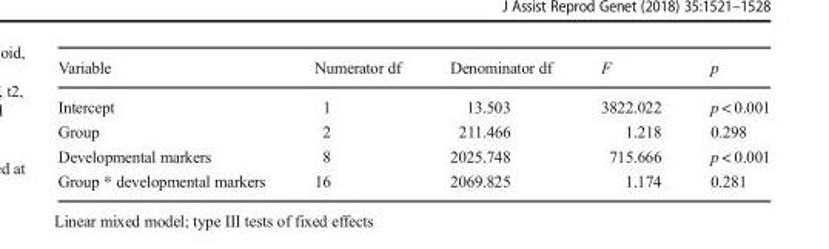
<table><thead><tr><td>Variable</td><td>Numerator df</td><td>Denominator df</td><td>F</td><td>p</td></tr></thead><tbody><tr><td>Intercept</td><td>1</td><td>13.503</td><td>3822.022</td><td>p &lt; 0.001</td></tr><tr><td>Group</td><td>2</td><td>211.466</td><td>1.218</td><td>0.298</td></tr><tr><td>Developmental markers</td><td>8</td><td>2025.748</td><td>715.666</td><td>p &lt; 0.001</td></tr><tr><td>Group * developmental markers</td><td>16</td><td>2069.825</td><td>1.174</td><td>0.281</td></tr></tbody></table>